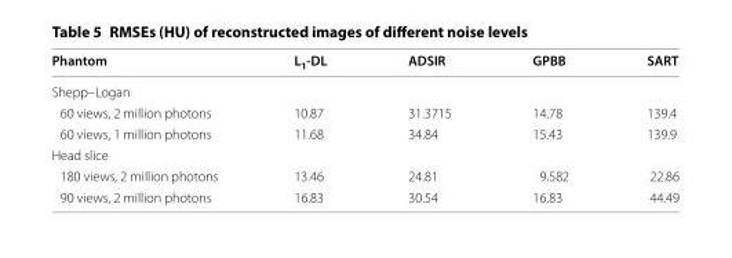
<table><thead><tr><td>Phantom</td><td>L<sub>1</sub>-DL</td><td>ADSIR</td><td>GPBB</td><td>SART</td></tr></thead><tbody><tr><td colspan="5">Shepp–Logan</td></tr><tr><td>60 views, 2 million photons</td><td>10.87</td><td>31.3715</td><td>14.78</td><td>139.4</td></tr><tr><td>60 views, 1 million photons</td><td>11.68</td><td>34.84</td><td>15.43</td><td>139.9</td></tr><tr><td colspan="5">Head slice</td></tr><tr><td>180 views, 2 million photons</td><td>13.46</td><td>24.81</td><td>9.582</td><td>22.86</td></tr><tr><td>90 views, 2 million photons</td><td>16.83</td><td>30.54</td><td>16.83</td><td>44.49</td></tr></tbody></table>